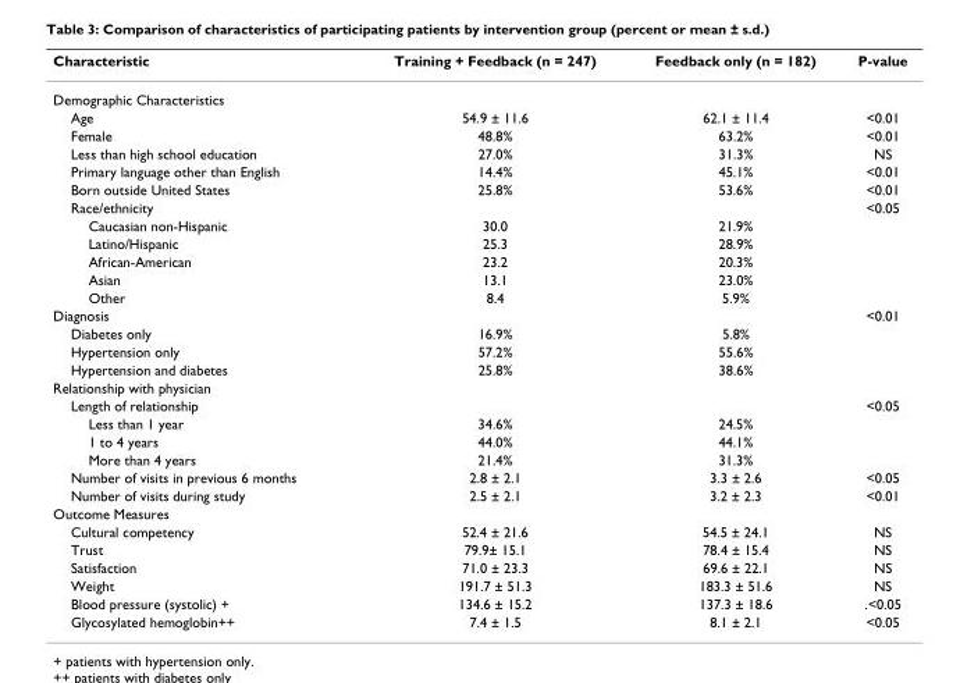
<table><thead><tr><td>Characteristic</td><td>Training + Feedback (n = 247)</td><td>Feedback only (n = 182)</td><td>P-value</td></tr></thead><tbody><tr><td colspan="4">Demographic Characteristics</td></tr><tr><td>Age</td><td>54.9 ± 11.6</td><td>62.1 ± 11.4</td><td>&lt;0.01</td></tr><tr><td>Female</td><td>48.8%</td><td>63.2%</td><td>&lt;0.01</td></tr><tr><td>Less than high school education</td><td>27.0%</td><td>31.3%</td><td>NS</td></tr><tr><td>Primary language other than English</td><td>14.4%</td><td>45.1%</td><td>&lt;0.01</td></tr><tr><td>Born outside United States</td><td>25.8%</td><td>53.6%</td><td>&lt;0.01</td></tr><tr><td>Race/ethnicity</td><td></td><td></td><td>&lt;0.05</td></tr><tr><td>Caucasian non-Hispanic</td><td>30.0</td><td>21.9%</td><td></td></tr><tr><td>Latino/Hispanic</td><td>25.3</td><td>28.9%</td><td></td></tr><tr><td>African-American</td><td>23.2</td><td>20.3%</td><td></td></tr><tr><td>Asian</td><td>13.1</td><td>23.0%</td><td></td></tr><tr><td>Other</td><td>8.4</td><td>5.9%</td><td></td></tr><tr><td>Diagnosis</td><td></td><td></td><td>&lt;0.01</td></tr><tr><td>Diabetes only</td><td>16.9%</td><td>5.8%</td><td></td></tr><tr><td>Hypertension only</td><td>57.2%</td><td>55.6%</td><td></td></tr><tr><td>Hypertension and diabetes</td><td>25.8%</td><td>38.6%</td><td></td></tr><tr><td colspan="4">Relationship with physician</td></tr><tr><td>Length of relationship</td><td></td><td></td><td>&lt;0.05</td></tr><tr><td>Less than 1 year</td><td>34.6%</td><td>24.5%</td><td></td></tr><tr><td>1 to 4 years</td><td>44.0%</td><td>44.1%</td><td></td></tr><tr><td>More than 4 years</td><td>21.4%</td><td>31.3%</td><td></td></tr><tr><td>Number of visits in previous 6 months</td><td>2.8 ± 2.1</td><td>3.3 ± 2.6</td><td>&lt;0.05</td></tr><tr><td>Number of visits during study</td><td>2.5 ± 2.1</td><td>3.2 ± 2.3</td><td>&lt;0.01</td></tr><tr><td colspan="4">Outcome Measures</td></tr><tr><td>Cultural competency</td><td>52.4 ± 21.6</td><td>54.5 ± 24.1</td><td>NS</td></tr><tr><td>Trust</td><td>79.9± 15.1</td><td>78.4 ± 15.4</td><td>NS</td></tr><tr><td>Satisfaction</td><td>71.0 ± 23.3</td><td>69.6 ± 22.1</td><td>NS</td></tr><tr><td>Weight</td><td>191.7 ± 51.3</td><td>183.3 ± 51.6</td><td>NS</td></tr><tr><td>Blood pressure (systolic) +</td><td>134.6 ± 15.2</td><td>137.3 ± 18.6</td><td>.&lt;0.05</td></tr><tr><td>Glycosylated hemoglobin++</td><td>7.4 ± 1.5</td><td>8.1 ± 2.1</td><td>&lt;0.05</td></tr></tbody></table>